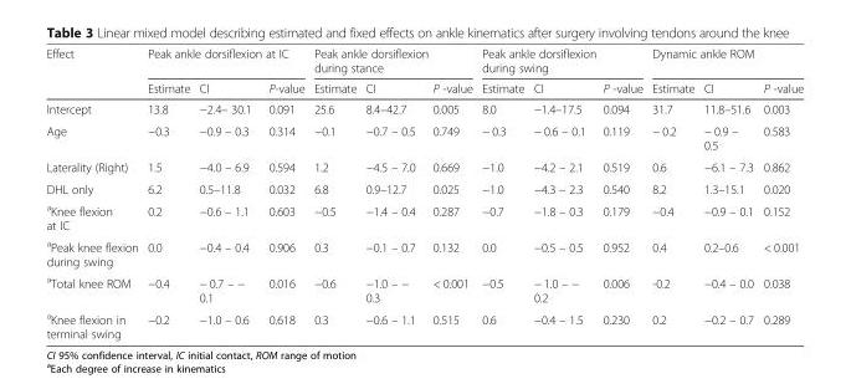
<table><thead><tr><td rowspan="2">Effect</td><td colspan="3">Peak ankle dorsiflexion at IC</td><td colspan="3">Peak ankle dorsiflexion during stance</td><td colspan="3">Peak ankle dorsiflexion during swing</td><td colspan="3">Dynamic ankle ROM</td></tr><tr><td>Estimate</td><td>CI</td><td>P-value</td><td>Estimate</td><td>CI</td><td>P -value</td><td>Estimate</td><td>CI</td><td>P -value</td><td>Estimate</td><td>CI</td><td>P -value</td></tr></thead><tbody><tr><td>Intercept</td><td>13.8</td><td>−2.4– 30.1</td><td>0.091</td><td>25.6</td><td>8.4–42.7</td><td>0.005</td><td>8.0</td><td>−1.4–17.5</td><td>0.094</td><td>31.7</td><td>11.8–51.6</td><td>0.003</td></tr><tr><td>Age</td><td>−0.3</td><td>−0.9 – 0.3</td><td>0.314</td><td>−0.1</td><td>−0.7 – 0.5</td><td>0.749</td><td>− 0.3</td><td>− 0.6 – 0.1</td><td>0.119</td><td>− 0.2</td><td>− 0.9 – 0.5</td><td>0.583</td></tr><tr><td>Laterality (Right)</td><td>1.5</td><td>−4.0 – 6.9</td><td>0.594</td><td>1.2</td><td>−4.5 – 7.0</td><td>0.669</td><td>−1.0</td><td>−4.2 – 2.1</td><td>0.519</td><td>0.6</td><td>−6.1 – 7.3</td><td>0.862</td></tr><tr><td>DHL only</td><td>6.2</td><td>0.5–11.8</td><td>0.032</td><td>6.8</td><td>0.9–12.7</td><td>0.025</td><td>−1.0</td><td>−4.3 – 2.3</td><td>0.540</td><td>8.2</td><td>1.3–15.1</td><td>0.020</td></tr><tr><td><sup>a</sup>Knee flexion at IC</td><td>0.2</td><td>−0.6 – 1.1</td><td>0.603</td><td>−0.5</td><td>−1.4 – 0.4</td><td>0.287</td><td>−0.7</td><td>−1.8 – 0.3</td><td>0.179</td><td>−0.4</td><td>−0.9 – 0.1</td><td>0.152</td></tr><tr><td><sup>a</sup>Peak knee flexion during swing</td><td>0.0</td><td>−0.4 – 0.4</td><td>0.906</td><td>0.3</td><td>−0.1 – 0.7</td><td>0.132</td><td>0.0</td><td>−0.5 – 0.5</td><td>0.952</td><td>0.4</td><td>0.2–0.6</td><td>&lt; 0.001</td></tr><tr><td><sup>a</sup>Total knee ROM</td><td>−0.4</td><td>− 0.7 – − 0.1</td><td>0.016</td><td>−0.6</td><td>−1.0 – − 0.3</td><td>&lt; 0.001</td><td>−0.5</td><td>− 1.0 – − 0.2</td><td>0.006</td><td>-0.2</td><td>−0.4 – 0.0</td><td>0.038</td></tr><tr><td><sup>a</sup>Knee flexion in terminal swing</td><td>−0.2</td><td>−1.0 – 0.6</td><td>0.618</td><td>0.3</td><td>−0.6 – 1.1</td><td>0.515</td><td>0.6</td><td>−0.4 – 1.5</td><td>0.230</td><td>0.2</td><td>−0.2 – 0.7</td><td>0.289</td></tr></tbody></table>